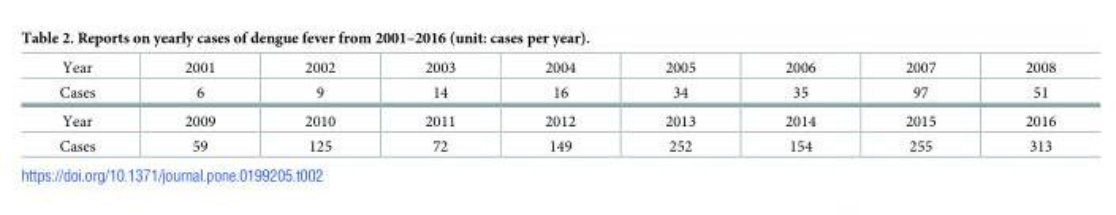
<table><tbody><tr><td>Year</td><td>2001</td><td>2002</td><td>2003</td><td>2004</td><td>2005</td><td>2006</td><td>2007</td><td>2008</td></tr><tr><td>Cases</td><td>6</td><td>9</td><td>14</td><td>16</td><td>34</td><td>35</td><td>97</td><td>51</td></tr><tr><td>Year</td><td>2009</td><td>2010</td><td>2011</td><td>2012</td><td>2013</td><td>2014</td><td>2015</td><td>2016</td></tr><tr><td>Cases</td><td>59</td><td>125</td><td>72</td><td>149</td><td>252</td><td>154</td><td>255</td><td>313</td></tr></tbody></table>